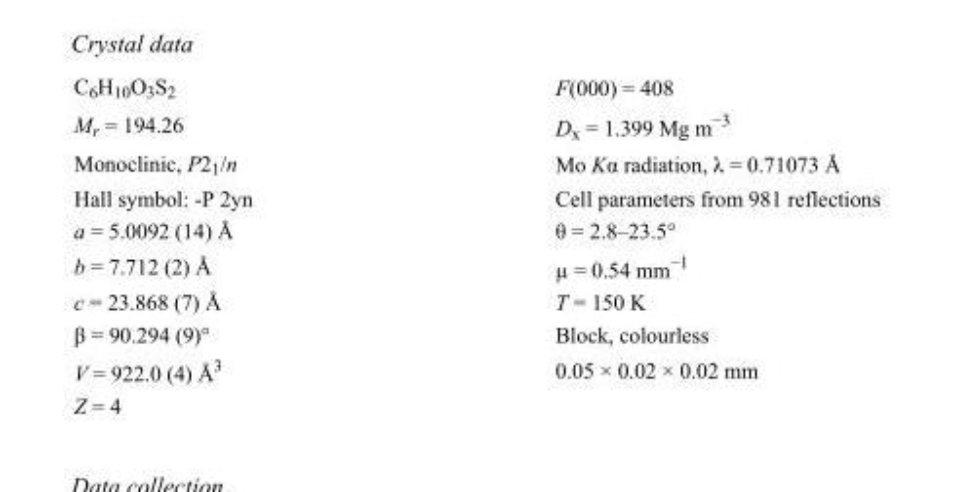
<table><tbody><tr><td>C<sub>6</sub>H<sub>10</sub>O<sub>3</sub>S<sub>2</sub></td><td>F(000) = 408</td></tr><tr><td>M<sub>r</sub> = 194.26</td><td>D<sub>x</sub> = 1.399 Mg m<sup>−3</sup></td></tr><tr><td>Monoclinic, P2<sub>1</sub>/n</td><td>Mo Kα radiation, λ = 0.71073 Å</td></tr><tr><td>Hall symbol: -P 2yn</td><td>Cell parameters from 981 reflections</td></tr><tr><td>a = 5.0092 (14) Å</td><td>θ = 2.8–23.5°</td></tr><tr><td>b = 7.712 (2) Å</td><td>µ = 0.54 mm<sup>−1</sup></td></tr><tr><td>c = 23.868 (7) Å</td><td>T = 150 K</td></tr><tr><td>β = 90.294 (9)°</td><td>Block, colourless</td></tr><tr><td>V = 922.0 (4) Å<sup>3</sup></td><td>0.05 × 0.02 × 0.02 mm</td></tr><tr><td>Z = 4</td><td></td></tr></tbody></table>